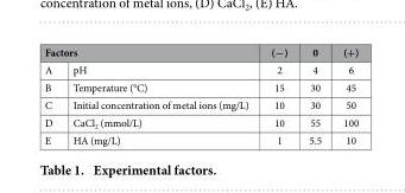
<table><thead><tr><td colspan="2">Factors</td><td rowspan="2">(−) 2</td><td rowspan="2">0 4</td><td rowspan="2">(+) 6</td></tr><tr><td>A</td><td>pH</td></tr></thead><tbody><tr><td>B</td><td>Temperature (°C)</td><td>15</td><td>30</td><td>45</td></tr><tr><td>C</td><td>Initial concentration of metal ions (mg/L)</td><td>10</td><td>30</td><td>50</td></tr><tr><td>D</td><td>CaCl<sub>2</sub> (mmol/L)</td><td>10</td><td>55</td><td>100</td></tr><tr><td>E</td><td>HA (mg/L)</td><td>1</td><td>5.5</td><td>10</td></tr></tbody></table>